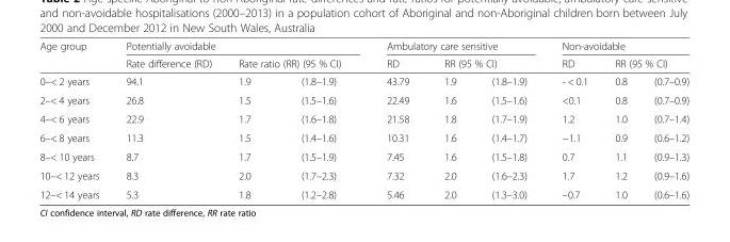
<table><thead><tr><td rowspan="3">Age group 0–&lt; 2 years</td><td colspan="3">Potentially avoidable</td><td colspan="3">Ambulatory care sensitive</td><td colspan="3">Non-avoidable</td></tr><tr><td rowspan="2">Rate difference (RD) 94.1</td><td colspan="2">Rate ratio (RR) (95 % CI)</td><td rowspan="2">RD 43.79</td><td colspan="2">RR (95 % CI)</td><td rowspan="2">RD - &lt; 0.1</td><td colspan="2">RR (95 % CI)</td></tr><tr><td>1.9</td><td>(1.8–1.9)</td><td>1.9</td><td>(1.8–1.9)</td><td>0.8</td><td>(0.7–0.9)</td></tr></thead><tbody><tr><td>2–&lt; 4 years</td><td>26.8</td><td>1.5</td><td>(1.5–1.6)</td><td>22.49</td><td>1.6</td><td>(1.5–1.6)</td><td>&lt;0.1</td><td>0.8</td><td>(0.7–0.9)</td></tr><tr><td>4–&lt; 6 years</td><td>22.9</td><td>1.7</td><td>(1.6–1.8)</td><td>21.58</td><td>1.8</td><td>(1.7–1.9)</td><td>1.2</td><td>1.0</td><td>(0.7–1.4)</td></tr><tr><td>6–&lt; 8 years</td><td>11.3</td><td>1.5</td><td>(1.4–1.6)</td><td>10.31</td><td>1.6</td><td>(1.4–1.7)</td><td>−1.1</td><td>0.9</td><td>(0.6–1.2)</td></tr><tr><td>8–&lt; 10 years</td><td>8.7</td><td>1.7</td><td>(1.5–1.9)</td><td>7.45</td><td>1.6</td><td>(1.5–1.8)</td><td>0.7</td><td>1.1</td><td>(0.9–1.3)</td></tr><tr><td>10–&lt; 12 years</td><td>8.3</td><td>2.0</td><td>(1.7–2.3)</td><td>7.32</td><td>2.0</td><td>(1.6–2.3)</td><td>1.7</td><td>1.2</td><td>(0.9–1.6)</td></tr><tr><td>12–&lt; 14 years</td><td>5.3</td><td>1.8</td><td>(1.2–2.8)</td><td>5.46</td><td>2.0</td><td>(1.3–3.0)</td><td>–0.7</td><td>1.0</td><td>(0.6–1.6)</td></tr></tbody></table>